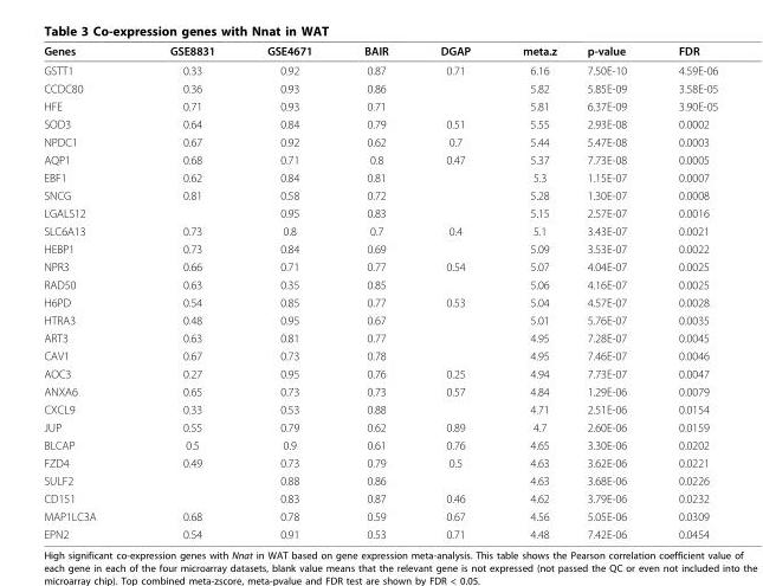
<table><thead><tr><td>Genes</td><td>GSE8831</td><td>GSE4671</td><td>BAIR</td><td>DGAP</td><td>meta.z</td><td>p-value</td><td>FDR</td></tr></thead><tbody><tr><td>GSTT1</td><td>0.33</td><td>0.92</td><td>0.87</td><td>0.71</td><td>6.16</td><td>7.50E-10</td><td>4.59E-06</td></tr><tr><td>CCDC80</td><td>0.36</td><td>0.93</td><td>0.86</td><td></td><td>5.82</td><td>5.85E-09</td><td>3.58E-05</td></tr><tr><td>HFE</td><td>0.71</td><td>0.93</td><td>0.71</td><td></td><td>5.81</td><td>6.37E-09</td><td>3.90E-05</td></tr><tr><td>SOD3</td><td>0.64</td><td>0.84</td><td>0.79</td><td>0.51</td><td>5.55</td><td>2.93E-08</td><td>0.0002</td></tr><tr><td>NPDC1</td><td>0.67</td><td>0.92</td><td>0.62</td><td>0.7</td><td>5.44</td><td>5.47E-08</td><td>0.0003</td></tr><tr><td>AQP1</td><td>0.68</td><td>0.71</td><td>0.8</td><td>0.47</td><td>5.37</td><td>7.73E-08</td><td>0.0005</td></tr><tr><td>EBF1</td><td>0.62</td><td>0.84</td><td>0.81</td><td></td><td>5.3</td><td>1.15E-07</td><td>0.0007</td></tr><tr><td>SNCG</td><td>0.81</td><td>0.58</td><td>0.72</td><td></td><td>5.28</td><td>1.30E-07</td><td>0.0008</td></tr><tr><td>LGALS12</td><td></td><td>0.95</td><td>0.83</td><td></td><td>5.15</td><td>2.57E-07</td><td>0.0016</td></tr><tr><td>SLC6A13</td><td>0.73</td><td>0.8</td><td>0.7</td><td>0.4</td><td>5.1</td><td>3.43E-07</td><td>0.0021</td></tr><tr><td>HEBP1</td><td>0.73</td><td>0.84</td><td>0.69</td><td></td><td>5.09</td><td>3.53E-07</td><td>0.0022</td></tr><tr><td>NPR3</td><td>0.66</td><td>0.71</td><td>0.77</td><td>0.54</td><td>5.07</td><td>4.04E-07</td><td>0.0025</td></tr><tr><td>RAD50</td><td>0.63</td><td>0.35</td><td>0.85</td><td></td><td>5.06</td><td>4.16E-07</td><td>0.0025</td></tr><tr><td>H6PD</td><td>0.54</td><td>0.85</td><td>0.77</td><td>0.53</td><td>5.04</td><td>4.57E-07</td><td>0.0028</td></tr><tr><td>HTRA3</td><td>0.48</td><td>0.95</td><td>0.67</td><td></td><td>5.01</td><td>5.76E-07</td><td>0.0035</td></tr><tr><td>ART3</td><td>0.63</td><td>0.81</td><td>0.77</td><td></td><td>4.95</td><td>7.28E-07</td><td>0.0045</td></tr><tr><td>CAV1</td><td>0.67</td><td>0.73</td><td>0.78</td><td></td><td>4.95</td><td>7.46E-07</td><td>0.0046</td></tr><tr><td>AOC3</td><td>0.27</td><td>0.95</td><td>0.76</td><td>0.25</td><td>4.94</td><td>7.73E-07</td><td>0.0047</td></tr><tr><td>ANXA6</td><td>0.65</td><td>0.73</td><td>0.73</td><td>0.57</td><td>4.84</td><td>1.29E-06</td><td>0.0079</td></tr><tr><td>CXCL9</td><td>0.33</td><td>0.53</td><td>0.88</td><td></td><td>4.71</td><td>2.51E-06</td><td>0.0154</td></tr><tr><td>JUP</td><td>0.55</td><td>0.79</td><td>0.62</td><td>0.89</td><td>4.7</td><td>2.60E-06</td><td>0.0159</td></tr><tr><td>BLCAP</td><td>0.5</td><td>0.9</td><td>0.61</td><td>0.76</td><td>4.65</td><td>3.30E-06</td><td>0.0202</td></tr><tr><td>FZD4</td><td>0.49</td><td>0.73</td><td>0.79</td><td>0.5</td><td>4.63</td><td>3.62E-06</td><td>0.0221</td></tr><tr><td>SULF2</td><td></td><td>0.88</td><td>0.86</td><td></td><td>4.63</td><td>3.68E-06</td><td>0.0226</td></tr><tr><td>CD151</td><td></td><td>0.83</td><td>0.87</td><td>0.46</td><td>4.62</td><td>3.79E-06</td><td>0.0232</td></tr><tr><td>MAP1LC3A</td><td>0.68</td><td>0.78</td><td>0.59</td><td>0.67</td><td>4.56</td><td>5.05E-06</td><td>0.0309</td></tr><tr><td>EPN2</td><td>0.54</td><td>0.91</td><td>0.53</td><td>0.71</td><td>4.48</td><td>7.42E-06</td><td>0.0454</td></tr></tbody></table>